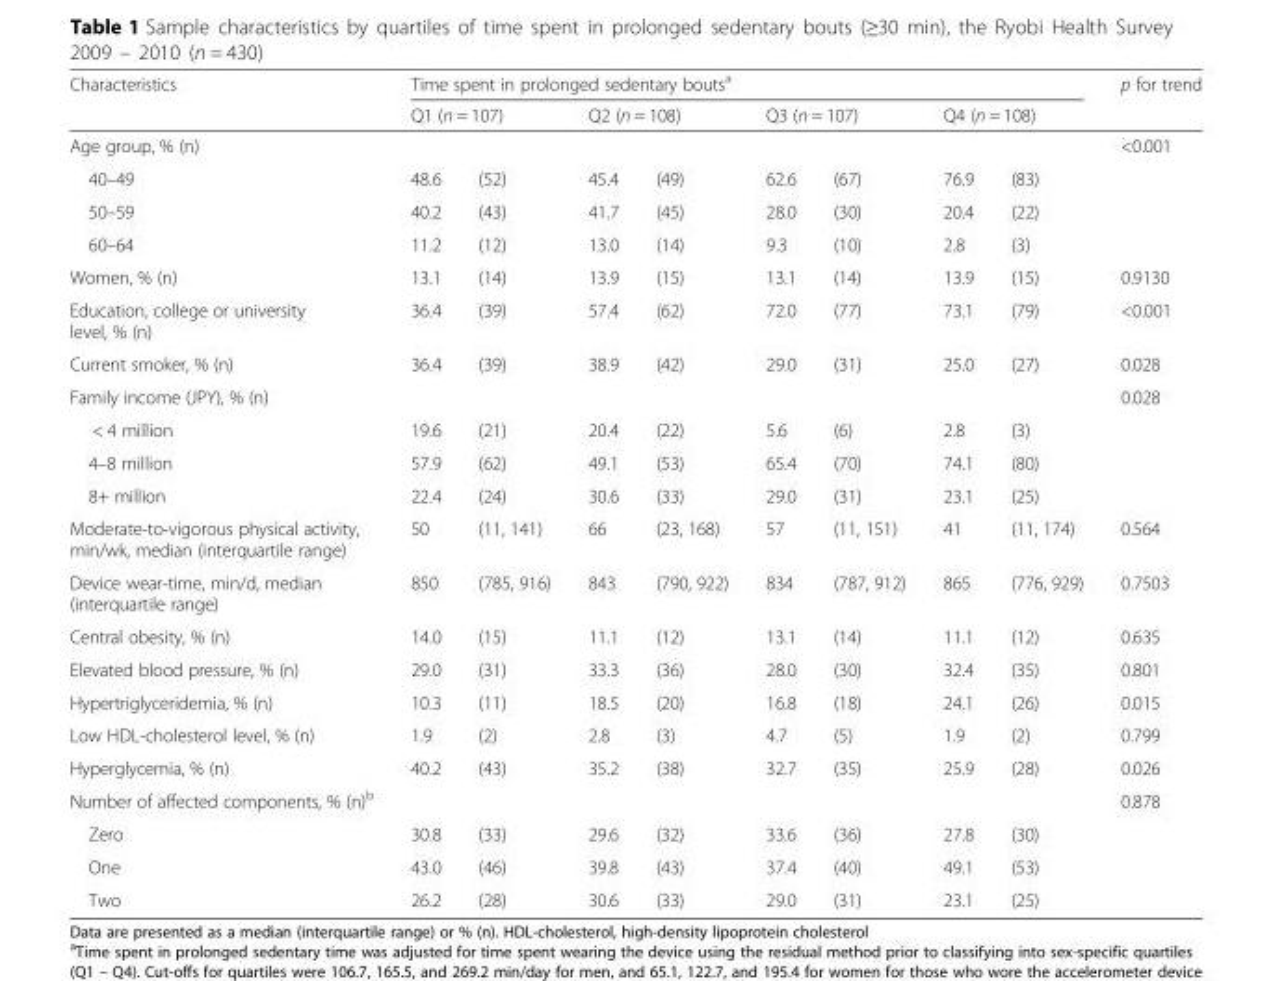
<table><thead><tr><td rowspan="3">Characteristics Age group, % (n)</td><td colspan="8">Time spent in prolonged sedentary bouts<sup>a</sup></td><td rowspan="3">p for trend &lt;0.001</td></tr><tr><td colspan="2">Q1 (n = 107)</td><td colspan="2">Q2 (n = 108)</td><td colspan="2">Q3 (n = 107)</td><td colspan="2">Q4 (n = 108)</td></tr><tr><td></td><td></td><td></td><td></td><td></td><td></td><td></td><td></td></tr></thead><tbody><tr><td>40–49</td><td>48.6</td><td>(52)</td><td>45.4</td><td>(49)</td><td>62.6</td><td>(67)</td><td>76.9</td><td>(83)</td><td></td></tr><tr><td>50–59</td><td>40.2</td><td>(43)</td><td>41.7</td><td>(45)</td><td>28.0</td><td>(30)</td><td>20.4</td><td>(22)</td><td></td></tr><tr><td>60–64</td><td>11.2</td><td>(12)</td><td>13.0</td><td>(14)</td><td>9.3</td><td>(10)</td><td>2.8</td><td>(3)</td><td></td></tr><tr><td>Women, % (n)</td><td>13.1</td><td>(14)</td><td>13.9</td><td>(15)</td><td>13.1</td><td>(14)</td><td>13.9</td><td>(15)</td><td>0.9130</td></tr><tr><td>Education, college or university level, % (n)</td><td>36.4</td><td>(39)</td><td>57.4</td><td>(62)</td><td>72.0</td><td>(77)</td><td>73.1</td><td>(79)</td><td>&lt;0.001</td></tr><tr><td>Current smoker, % (n)</td><td>36.4</td><td>(39)</td><td>38.9</td><td>(42)</td><td>29.0</td><td>(31)</td><td>25.0</td><td>(27)</td><td>0.028</td></tr><tr><td>Family income (JPY), % (n)</td><td></td><td></td><td></td><td></td><td></td><td></td><td></td><td></td><td>0.028</td></tr><tr><td>&lt; 4 million</td><td>19.6</td><td>(21)</td><td>20.4</td><td>(22)</td><td>5.6</td><td>(6)</td><td>2.8</td><td>(3)</td><td></td></tr><tr><td>4–8 million</td><td>57.9</td><td>(62)</td><td>49.1</td><td>(53)</td><td>65.4</td><td>(70)</td><td>74.1</td><td>(80)</td><td></td></tr><tr><td>8+ million</td><td>22.4</td><td>(24)</td><td>30.6</td><td>(33)</td><td>29.0</td><td>(31)</td><td>23.1</td><td>(25)</td><td></td></tr><tr><td>Moderate-to-vigorous physical activity, min/wk, median (interquartile range)</td><td>50</td><td>(11, 141)</td><td>66</td><td>(23, 168)</td><td>57</td><td>(11, 151)</td><td>41</td><td>(11, 174)</td><td>0.564</td></tr><tr><td>Device wear-time, min/d, median (interquartile range)</td><td>850</td><td>(785, 916)</td><td>843</td><td>(790, 922)</td><td>834</td><td>(787, 912)</td><td>865</td><td>(776, 929)</td><td>0.7503</td></tr><tr><td>Central obesity, % (n)</td><td>14.0</td><td>(15)</td><td>11.1</td><td>(12)</td><td>13.1</td><td>(14)</td><td>11.1</td><td>(12)</td><td>0.635</td></tr><tr><td>Elevated blood pressure, % (n)</td><td>29.0</td><td>(31)</td><td>33.3</td><td>(36)</td><td>28.0</td><td>(30)</td><td>32.4</td><td>(35)</td><td>0.801</td></tr><tr><td>Hypertriglyceridemia, % (n)</td><td>10.3</td><td>(11)</td><td>18.5</td><td>(20)</td><td>16.8</td><td>(18)</td><td>24.1</td><td>(26)</td><td>0.015</td></tr><tr><td>Low HDL-cholesterol level, % (n)</td><td>1.9</td><td>(2)</td><td>2.8</td><td>(3)</td><td>4.7</td><td>(5)</td><td>1.9</td><td>(2)</td><td>0.799</td></tr><tr><td>Hyperglycemia, % (n)</td><td>40.2</td><td>(43)</td><td>35.2</td><td>(38)</td><td>32.7</td><td>(35)</td><td>25.9</td><td>(28)</td><td>0.026</td></tr><tr><td>Number of affected components, % (n)<sup>b</sup></td><td></td><td></td><td></td><td></td><td></td><td></td><td></td><td></td><td>0.878</td></tr><tr><td>Zero</td><td>30.8</td><td>(33)</td><td>29.6</td><td>(32)</td><td>33.6</td><td>(36)</td><td>27.8</td><td>(30)</td><td></td></tr><tr><td>One</td><td>43.0</td><td>(46)</td><td>39.8</td><td>(43)</td><td>37.4</td><td>(40)</td><td>49.1</td><td>(53)</td><td></td></tr><tr><td>Two</td><td>26.2</td><td>(28)</td><td>30.6</td><td>(33)</td><td>29.0</td><td>(31)</td><td>23.1</td><td>(25)</td><td></td></tr></tbody></table>